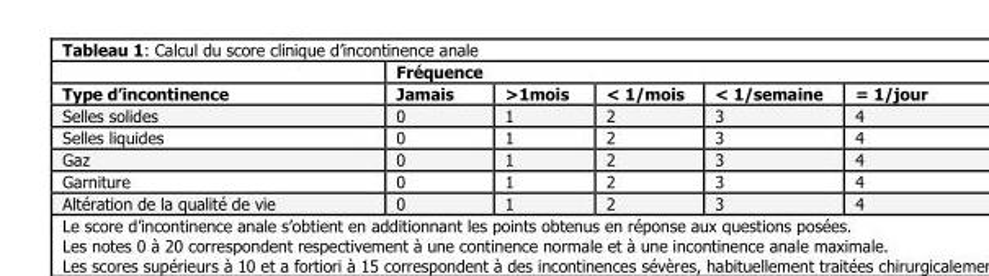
<table><thead><tr><td rowspan="2">Type d’incontinence</td><td colspan="5">Fréquence</td></tr><tr><td>Jamais</td><td>&gt;1mois</td><td>&lt; 1/mois</td><td>&lt; 1/semaine</td><td>= 1/jour</td></tr></thead><tbody><tr><td>Selles solides</td><td>0</td><td>1</td><td>2</td><td>3</td><td>4</td></tr><tr><td>Selles liquides</td><td>0</td><td>1</td><td>2</td><td>3</td><td>4</td></tr><tr><td>Gaz</td><td>0</td><td>1</td><td>2</td><td>3</td><td>4</td></tr><tr><td>Garniture</td><td>0</td><td>1</td><td>2</td><td>3</td><td>4</td></tr><tr><td>Altération de la qualité de vie</td><td>0</td><td>1</td><td>2</td><td>3</td><td>4</td></tr></tbody></table>